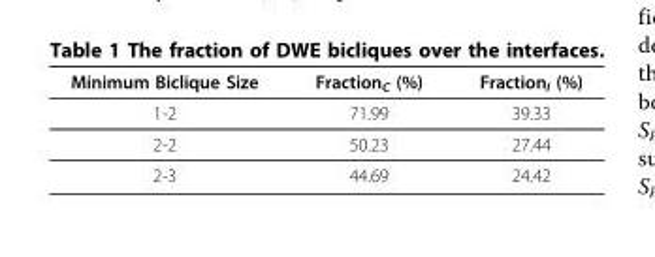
<table><thead><tr><td>Minimum Biclique Size</td><td>Fraction<sub>C</sub> (%)</td><td>Fraction<sub>I</sub> (%)</td></tr></thead><tbody><tr><td>1-2</td><td>71.99</td><td>39.33</td></tr><tr><td>2-2</td><td>50.23</td><td>27.44</td></tr><tr><td>2-3</td><td>44.69</td><td>24.42</td></tr></tbody></table>